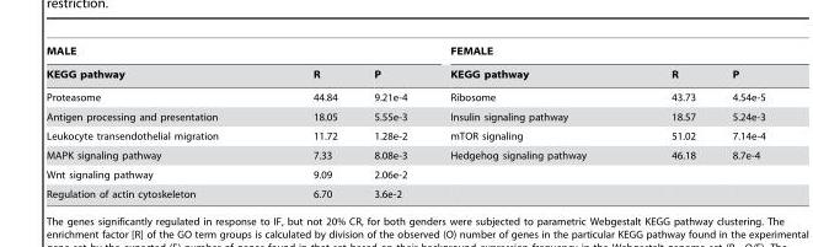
<table><thead><tr><td colspan="3">MALE</td><td colspan="3">FEMALE</td></tr><tr><td>KEGG pathway</td><td>R</td><td>P</td><td>KEGG pathway</td><td>R</td><td>P</td></tr></thead><tbody><tr><td>Proteasome</td><td>44.84</td><td>9.21e-4</td><td>Ribosome</td><td>43.73</td><td>4.54e-5</td></tr><tr><td>Antigen processing and presentation</td><td>18.05</td><td>5.55e-3</td><td>Insulin signaling pathway</td><td>18.57</td><td>5.24e-3</td></tr><tr><td>Leukocyte transendothelial migration</td><td>11.72</td><td>1.28e-2</td><td>mTOR signaling</td><td>51.02</td><td>7.14e-4</td></tr><tr><td>MAPK signaling pathway</td><td>7.33</td><td>8.08e-3</td><td>Hedgehog signaling pathway</td><td>46.18</td><td>8.7e-4</td></tr><tr><td>Wnt signaling pathway</td><td>9.09</td><td>2.06e-2</td><td></td><td></td><td></td></tr><tr><td>Regulation of actin cytoskeleton</td><td>6.70</td><td>3.6e-2</td><td></td><td></td><td></td></tr></tbody></table>